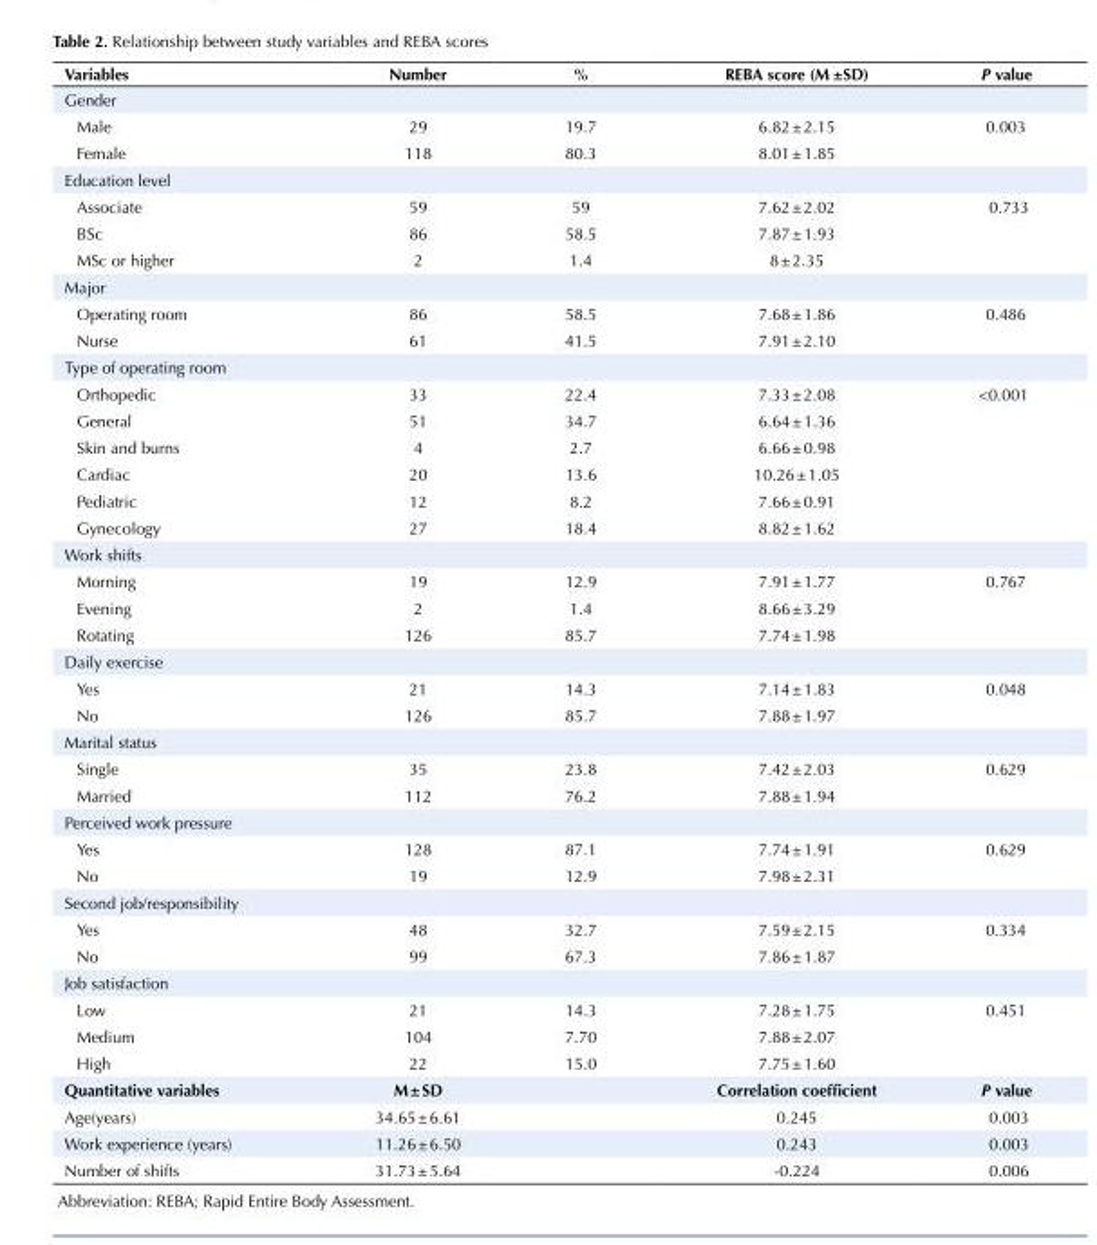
<table><tbody><tr><td>Variables</td><td>Number</td><td>%</td><td>REBA score (M ±SD)</td><td>P value</td></tr><tr><td colspan="5">Gender</td></tr><tr><td>Male</td><td>29</td><td>19.7</td><td>6.82 ± 2.15</td><td>0.003</td></tr><tr><td>Female</td><td>118</td><td>80.3</td><td>8.01 ± 1.85</td><td></td></tr><tr><td colspan="5">Education level</td></tr><tr><td>Associate</td><td>59</td><td>59</td><td>7.62 ± 2.02</td><td>0.733</td></tr><tr><td>BSc</td><td>86</td><td>58.5</td><td>7.87 ± 1.93</td><td></td></tr><tr><td>MSc or higher</td><td>2</td><td>1.4</td><td>8 ± 2.35</td><td></td></tr><tr><td colspan="5">Major</td></tr><tr><td>Operating room</td><td>86</td><td>58.5</td><td>7.68 ± 1.86</td><td>0.486</td></tr><tr><td>Nurse</td><td>61</td><td>41.5</td><td>7.91 ± 2.10</td><td></td></tr><tr><td colspan="5">Type of operating room</td></tr><tr><td>Orthopedic</td><td>33</td><td>22.4</td><td>7.33 ± 2.08</td><td>&lt;0.001</td></tr><tr><td>General</td><td>51</td><td>34.7</td><td>6.64 ± 1.36</td><td></td></tr><tr><td>Skin and burns</td><td>4</td><td>2.7</td><td>6.66 ± 0.98</td><td></td></tr><tr><td>Cardiac</td><td>20</td><td>13.6</td><td>10.26 ± 1.05</td><td></td></tr><tr><td>Pediatric</td><td>12</td><td>8.2</td><td>7.66 ± 0.91</td><td></td></tr><tr><td>Gynecology</td><td>27</td><td>18.4</td><td>8.82 ± 1.62</td><td></td></tr><tr><td colspan="5">Work shifts</td></tr><tr><td>Morning</td><td>19</td><td>12.9</td><td>7.91 ± 1.77</td><td>0.767</td></tr><tr><td>Evening</td><td>2</td><td>1.4</td><td>8.66 ± 3.29</td><td></td></tr><tr><td>Rotating</td><td>126</td><td>85.7</td><td>7.74 ± 1.98</td><td></td></tr><tr><td colspan="5">Daily exercise</td></tr><tr><td>Yes</td><td>21</td><td>14.3</td><td>7.14 ± 1.83</td><td>0.048</td></tr><tr><td>No</td><td>126</td><td>85.7</td><td>7.88 ± 1.97</td><td></td></tr><tr><td colspan="5">Marital status</td></tr><tr><td>Single</td><td>35</td><td>23.8</td><td>7.42 ± 2.03</td><td>0.629</td></tr><tr><td>Married</td><td>112</td><td>76.2</td><td>7.88 ± 1.94</td><td></td></tr><tr><td colspan="5">Perceived work pressure</td></tr><tr><td>Yes</td><td>128</td><td>87.1</td><td>7.74 ± 1.91</td><td>0.629</td></tr><tr><td>No</td><td>19</td><td>12.9</td><td>7.98 ± 2.31</td><td></td></tr><tr><td colspan="5">Second job/responsibility</td></tr><tr><td>Yes</td><td>48</td><td>32.7</td><td>7.59 ± 2.15</td><td>0.334</td></tr><tr><td>No</td><td>99</td><td>67.3</td><td>7.86 ± 1.87</td><td></td></tr><tr><td colspan="5">Job satisfaction</td></tr><tr><td>Low</td><td>21</td><td>14.3</td><td>7.28 ± 1.75</td><td>0.451</td></tr><tr><td>Medium</td><td>104</td><td>7.70</td><td>7.88 ± 2.07</td><td></td></tr><tr><td>High</td><td>22</td><td>15.0</td><td>7.75 ± 1.60</td><td></td></tr><tr><td>Quantitative variables</td><td>M ± SD</td><td></td><td>Correlation coefficient</td><td>P value</td></tr><tr><td>Age(years)</td><td>34.65 ± 6.61</td><td></td><td>0.245</td><td>0.003</td></tr><tr><td>Work experience (years)</td><td>11.26 ± 6.50</td><td></td><td>0.243</td><td>0.003</td></tr><tr><td>Number of shifts</td><td>31.73 ± 5.64</td><td></td><td>-0.224</td><td>0.006</td></tr></tbody></table>